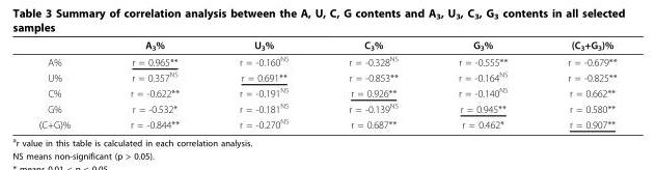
<table><thead><tr><td></td><td>A<sub>3</sub>%</td><td>U<sub>3</sub>%</td><td>C<sub>3</sub>%</td><td>G<sub>3</sub>%</td><td>(C<sub>3</sub>+G<sub>3</sub>)%</td></tr></thead><tbody><tr><td>A%</td><td>r = 0.965**</td><td>r = -0.160<sup>NS</sup></td><td>r = -0.328<sup>NS</sup></td><td>r = -0.555**</td><td>r = -0.679**</td></tr><tr><td>U%</td><td>r = 0.357<sup>NS</sup></td><td>r = 0.691**</td><td>r = -0.853**</td><td>r = -0.164<sup>NS</sup></td><td>r = -0.825**</td></tr><tr><td>C%</td><td>r = -0.622**</td><td>r = -0.191<sup>NS</sup></td><td>r = 0.926**</td><td>r = -0.140<sup>NS</sup></td><td>r = 0.662**</td></tr><tr><td>G%</td><td>r = -0.532*</td><td>r = -0.181<sup>NS</sup></td><td>r = -0.139<sup>NS</sup></td><td>r = 0.945**</td><td>r = 0.580**</td></tr><tr><td>(C+G)%</td><td>r = -0.844**</td><td>r = -0.270<sup>NS</sup></td><td>r = 0.687**</td><td>r = 0.462*</td><td>r = 0.907**</td></tr></tbody></table>